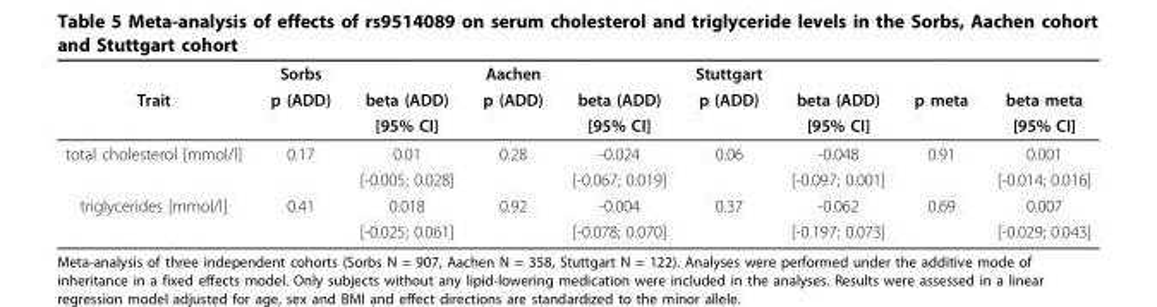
<table><thead><tr><td rowspan="3">Trait</td><td rowspan="3">Sorbs p (ADD)</td><td rowspan="3">beta (ADD) [95% CI]</td><td rowspan="3">Aachen p (ADD)</td><td rowspan="3">beta (ADD) [95% CI]</td><td rowspan="3">Stuttgart p (ADD)</td><td rowspan="3">beta (ADD) [95% CI]</td><td rowspan="3">p meta</td><td rowspan="3">beta meta [95% CI]</td></tr><tr></tr><tr></tr></thead><tbody><tr><td rowspan="2">total cholesterol [mmol/l]</td><td>0.17</td><td>0.01</td><td>0.28</td><td>-0.024</td><td>0.06</td><td>-0.048</td><td>0.91</td><td>0.001</td></tr><tr><td></td><td>[-0.005; 0.028]</td><td></td><td>[-0.067; 0.019]</td><td></td><td>[-0.097; 0.001]</td><td></td><td>[-0.014; 0.016]</td></tr><tr><td rowspan="2">triglycerides [mmol/l]</td><td>0.41</td><td>0.018</td><td>0.92</td><td>-0.004</td><td>0.37</td><td>-0.062</td><td>0.69</td><td>0.007</td></tr><tr><td></td><td>[-0.025; 0.061]</td><td></td><td>[-0.078; 0.070]</td><td></td><td>[-0.197; 0.073]</td><td></td><td>[-0.029; 0.043]</td></tr></tbody></table>